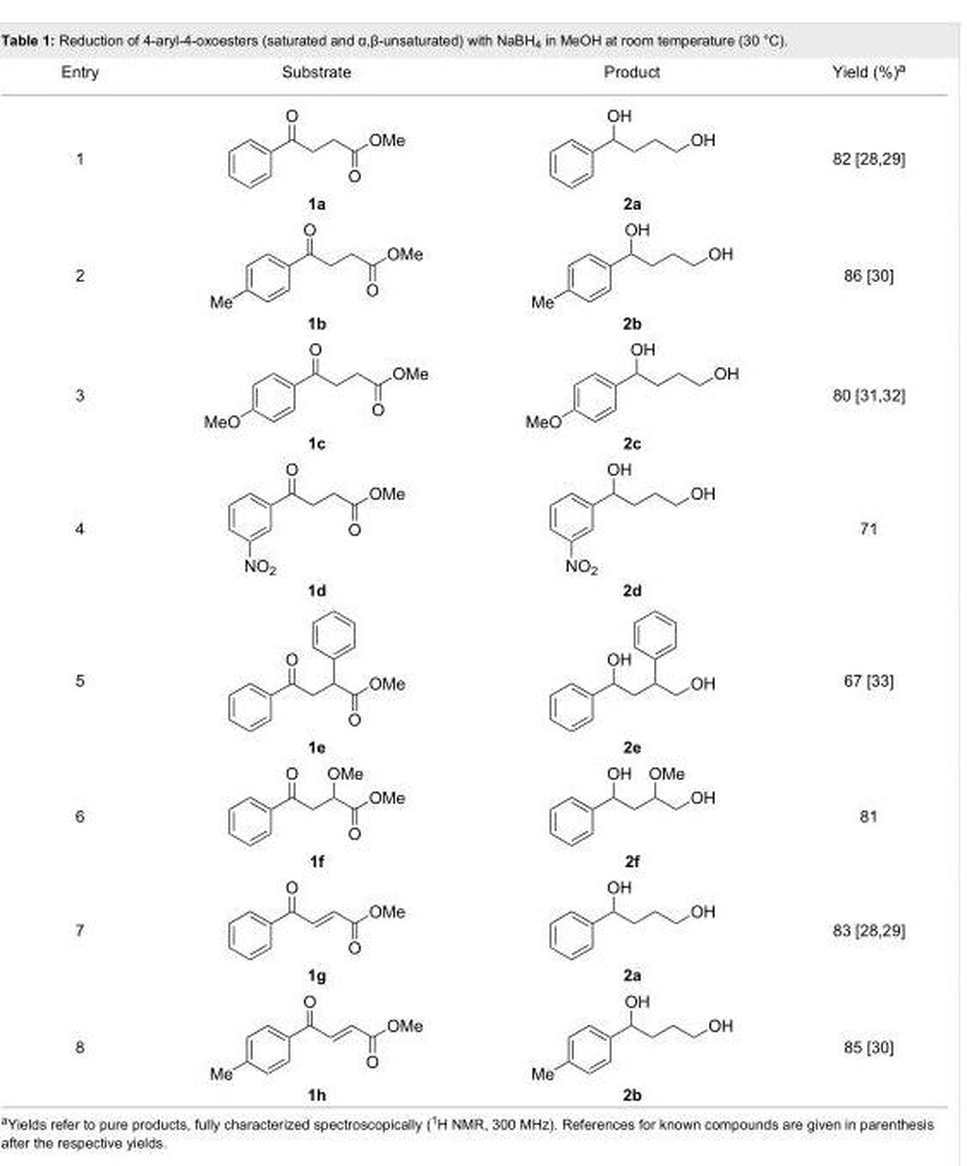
<table><tbody><tr><td>Entry</td><td>Substrate</td><td>Product</td><td>Yield (%)<sup>a</sup></td></tr><tr><td>1</td><td>1a</td><td>2a</td><td>82 [28–29]</td></tr><tr><td>2</td><td>1b</td><td>2b</td><td>86 [30]</td></tr><tr><td>3</td><td>1c</td><td>2c</td><td>80 [31–32]</td></tr><tr><td>4</td><td>1d</td><td>2d</td><td>71</td></tr><tr><td>5</td><td>1e</td><td>2e</td><td>67 [33]</td></tr><tr><td>6</td><td>1f</td><td>2f</td><td>81</td></tr><tr><td>7</td><td>1g</td><td>2a</td><td>83 [28–29]</td></tr><tr><td>8</td><td>1h</td><td>2b</td><td>85 [30]</td></tr></tbody></table>